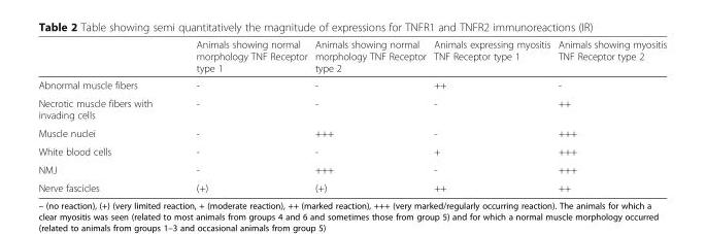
<table><thead><tr><td></td><td>Animals showing normal morphology TNF Receptor type 1</td><td>Animals showing normal morphology TNF Receptor type 2</td><td>Animals expressing myositis TNF Receptor type 1</td><td>Animals showing myositis TNF Receptor type 2</td></tr></thead><tbody><tr><td>Abnormal muscle fibers</td><td>-</td><td>-</td><td>++</td><td>-</td></tr><tr><td>Necrotic muscle fibers with invading cells</td><td>-</td><td>-</td><td>-</td><td>++</td></tr><tr><td>Muscle nuclei</td><td>-</td><td>+++</td><td>-</td><td>+++</td></tr><tr><td>White blood cells</td><td>-</td><td>-</td><td>+</td><td>+++</td></tr><tr><td>NMJ</td><td>-</td><td>+++</td><td>-</td><td>+++</td></tr><tr><td>Nerve fascicles</td><td>(+)</td><td>(+)</td><td>++</td><td>++</td></tr></tbody></table>